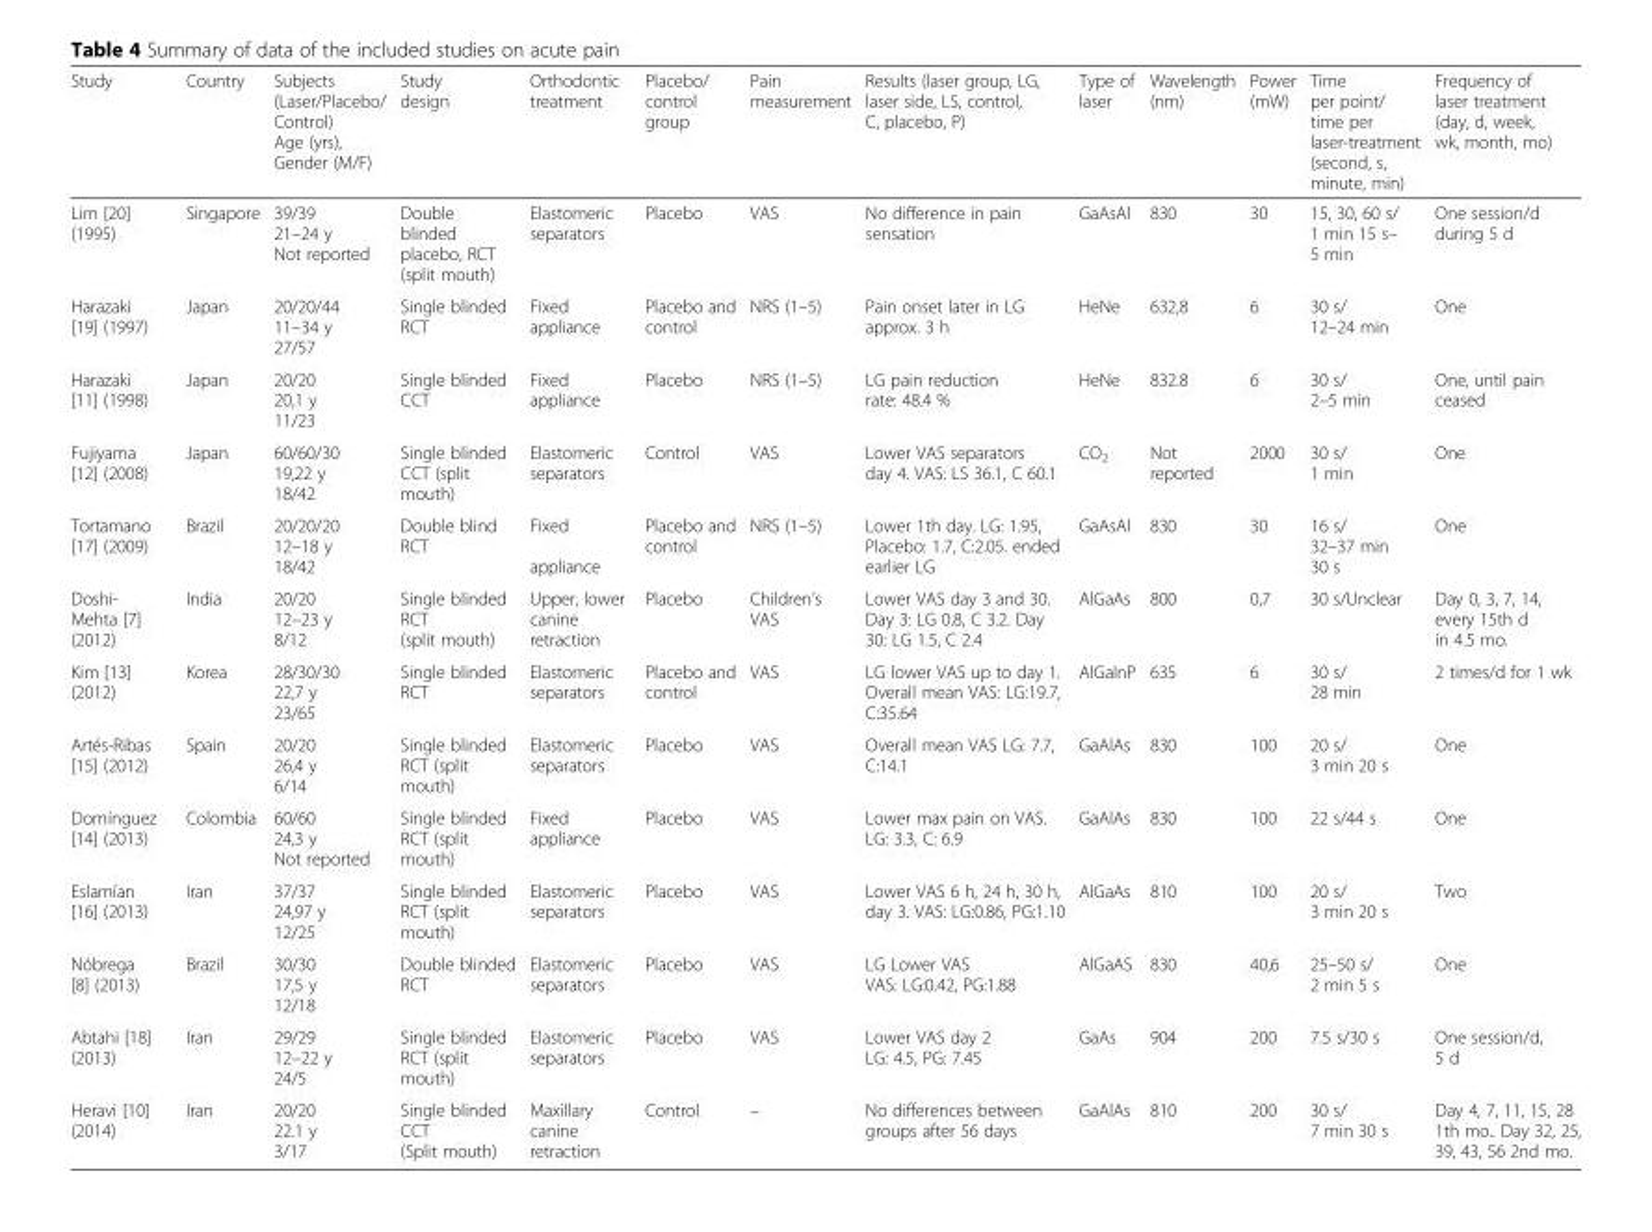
<table><thead><tr><td>Study</td><td>Country</td><td>Subjects (Laser/Placebo/ Control) Age (yrs), Gender (M/F)</td><td>Study design</td><td>Orthodontic treatment</td><td>Placebo/ control group</td><td>Pain measurement</td><td>Results (laser group, LG, laser side, LS, control, C, placebo, P)</td><td>Type of laser</td><td>Wavelength (nm)</td><td>Power (mW)</td><td>Time per point/ time per laser-treatment (second, s, minute, min)</td><td>Frequency of laser treatment (day, d, week, wk, month, mo)</td></tr></thead><tbody><tr><td>Lim [20] (1995)</td><td>Singapore</td><td>39/39 21–24 y Not reported</td><td>Double blinded placebo, RCT (split mouth)</td><td>Elastomeric separators</td><td>Placebo</td><td>VAS</td><td>No difference in pain sensation</td><td>GaAsAl</td><td>830</td><td>30</td><td>15, 30, 60 s/ 1 min 15 s– 5 min</td><td>One session/d during 5 d</td></tr><tr><td>Harazaki [19] (1997)</td><td>Japan</td><td>20/20/44 11–34 y 27/57</td><td>Single blinded RCT</td><td>Fixed appliance</td><td>Placebo and control</td><td>NRS (1–5)</td><td>Pain onset later in LG approx. 3 h</td><td>HeNe</td><td>632,8</td><td>6</td><td>30 s/ 12–24 min</td><td>One</td></tr><tr><td>Harazaki [11] (1998)</td><td>Japan</td><td>20/20 20,1 y 11/23</td><td>Single blinded CCT</td><td>Fixed appliance</td><td>Placebo</td><td>NRS (1–5)</td><td>LG pain reduction rate: 48.4 %</td><td>HeNe</td><td>832.8</td><td>6</td><td>30 s/ 2–5 min</td><td>One, until pain ceased</td></tr><tr><td>Fujiyama [12] (2008)</td><td>Japan</td><td>60/60/30 19,22 y 18/42</td><td>Single blinded CCT (split mouth)</td><td>Elastomeric separators</td><td>Control</td><td>VAS</td><td>Lower VAS separators day 4. VAS: LS 36.1, C 60.1</td><td>CO<sub>2</sub></td><td>Not reported</td><td>2000</td><td>30 s/ 1 min</td><td>One</td></tr><tr><td>Tortamano [17] (2009)</td><td>Brazil</td><td>20/20/20 12–18 y 18/42</td><td>Double blind RCT</td><td>Fixed appliance</td><td>Placebo and control</td><td>NRS (1–5)</td><td>Lower 1th day. LG: 1.95, Placebo: 1.7, C:2.05. ended earlier LG</td><td>GaAsAl</td><td>830</td><td>30</td><td>16 s/ 32–37 min 30 s</td><td>One</td></tr><tr><td>Doshi- Mehta [7] (2012)</td><td>India</td><td>20/20 12–23 y 8/12</td><td>Single blinded RCT (split mouth)</td><td>Upper, lower canine retraction</td><td>Placebo</td><td>Children’s VAS</td><td>Lower VAS day 3 and 30. Day 3: LG 0.8, C 3.2. Day 30: LG 1.5, C 2.4</td><td>AlGaAs</td><td>800</td><td>0,7</td><td>30 s/Unclear</td><td>Day 0, 3, 7, 14, every 15th d in 4.5 mo.</td></tr><tr><td>Kim [13] (2012)</td><td>Korea</td><td>28/30/30 22,7 y 23/65</td><td>Single blinded RCT</td><td>Elastomeric separators</td><td>Placebo and control</td><td>VAS</td><td>LG lower VAS up to day 1. Overall mean VAS: LG:19.7, C:35.64</td><td>AlGaInP</td><td>635</td><td>6</td><td>30 s/ 28 min</td><td>2 times/d for 1 wk</td></tr><tr><td>Artés-Ribas [15] (2012)</td><td>Spain</td><td>20/20 26,4 y 6/14</td><td>Single blinded RCT (split mouth)</td><td>Elastomeric separators</td><td>Placebo</td><td>VAS</td><td>Overall mean VAS LG: 7.7, C:14.1</td><td>GaAlAs</td><td>830</td><td>100</td><td>20 s/ 3 min 20 s</td><td>One</td></tr><tr><td>Domínguez [14] (2013)</td><td>Colombia</td><td>60/60 24,3 y Not reported</td><td>Single blinded RCT (split mouth)</td><td>Fixed appliance</td><td>Placebo</td><td>VAS</td><td>Lower max pain on VAS. LG: 3.3, C: 6.9</td><td>GaAlAs</td><td>830</td><td>100</td><td>22 s/44 s</td><td>One</td></tr><tr><td>Eslamían [16] (2013)</td><td>Iran</td><td>37/37 24,97 y 12/25</td><td>Single blinded RCT (split mouth)</td><td>Elastomeric separators</td><td>Placebo</td><td>VAS</td><td>Lower VAS 6 h, 24 h, 30 h, day 3. VAS: LG:0.86, PG:1.10</td><td>AlGaAs</td><td>810</td><td>100</td><td>20 s/ 3 min 20 s</td><td>Two</td></tr><tr><td>Nóbrega [8] (2013)</td><td>Brazil</td><td>30/30 17,5 y 12/18</td><td>Double blinded RCT</td><td>Elastomeric separators</td><td>Placebo</td><td>VAS</td><td>LG Lower VAS VAS: LG:0.42, PG:1.88</td><td>AlGaAS</td><td>830</td><td>40,6</td><td>25–50 s/ 2 min 5 s</td><td>One</td></tr><tr><td>Abtahi [18] (2013)</td><td>Iran</td><td>29/29 12–22 y 24/5</td><td>Single blinded RCT (split mouth)</td><td>Elastomeric separators</td><td>Placebo</td><td>VAS</td><td>Lower VAS day 2 LG: 4.5, PG: 7.45</td><td>GaAs</td><td>904</td><td>200</td><td>7.5 s/30 s</td><td>One session/d, 5 d</td></tr><tr><td>Heravi [10] (2014)</td><td>Iran</td><td>20/20 22.1 y 3/17</td><td>Single blinded CCT (Split mouth)</td><td>Maxillary canine retraction</td><td>Control</td><td>–</td><td>No differences between groups after 56 days</td><td>GaAlAs</td><td>810</td><td>200</td><td>30 s/ 7 min 30 s</td><td>Day 4, 7, 11, 15, 28 1th mo.. Day 32, 25, 39, 43, 56 2nd mo.</td></tr></tbody></table>